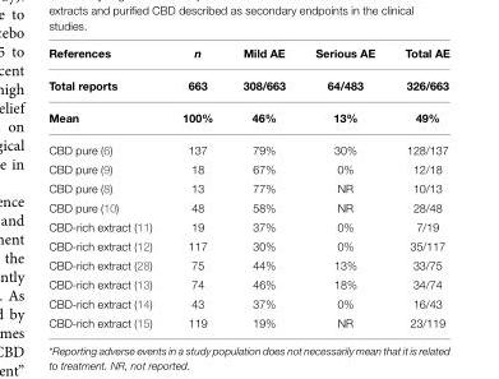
<table><thead><tr><td rowspan="3">References Total reports Mean</td><td rowspan="3">n 663 100%</td><td rowspan="3">Mild AE 308/663 46%</td><td rowspan="3">Serious AE 64/483 13%</td><td rowspan="3">Total AE 326/663 49%</td></tr><tr></tr><tr></tr></thead><tbody><tr><td>CBD pure (6)</td><td>137</td><td>79%</td><td>30%</td><td>128/137</td></tr><tr><td>CBD pure (9)</td><td>18</td><td>67%</td><td>0%</td><td>12/18</td></tr><tr><td>CBD pure (8)</td><td>13</td><td>77%</td><td>NR</td><td>10/13</td></tr><tr><td>CBD pure (10)</td><td>48</td><td>58%</td><td>NR</td><td>28/48</td></tr><tr><td>CBD-rich extract (11)</td><td>19</td><td>37%</td><td>0%</td><td>7/19</td></tr><tr><td>CBD-rich extract (12)</td><td>117</td><td>30%</td><td>0%</td><td>35/117</td></tr><tr><td>CBD-rich extract (28)</td><td>75</td><td>44%</td><td>13%</td><td>33/75</td></tr><tr><td>CBD-rich extract (13)</td><td>74</td><td>46%</td><td>18%</td><td>34/74</td></tr><tr><td>CBD-rich extract (14)</td><td>43</td><td>37%</td><td>0%</td><td>16/43</td></tr><tr><td>CBD-rich extract (15)</td><td>119</td><td>19%</td><td>NR</td><td>23/119</td></tr></tbody></table>